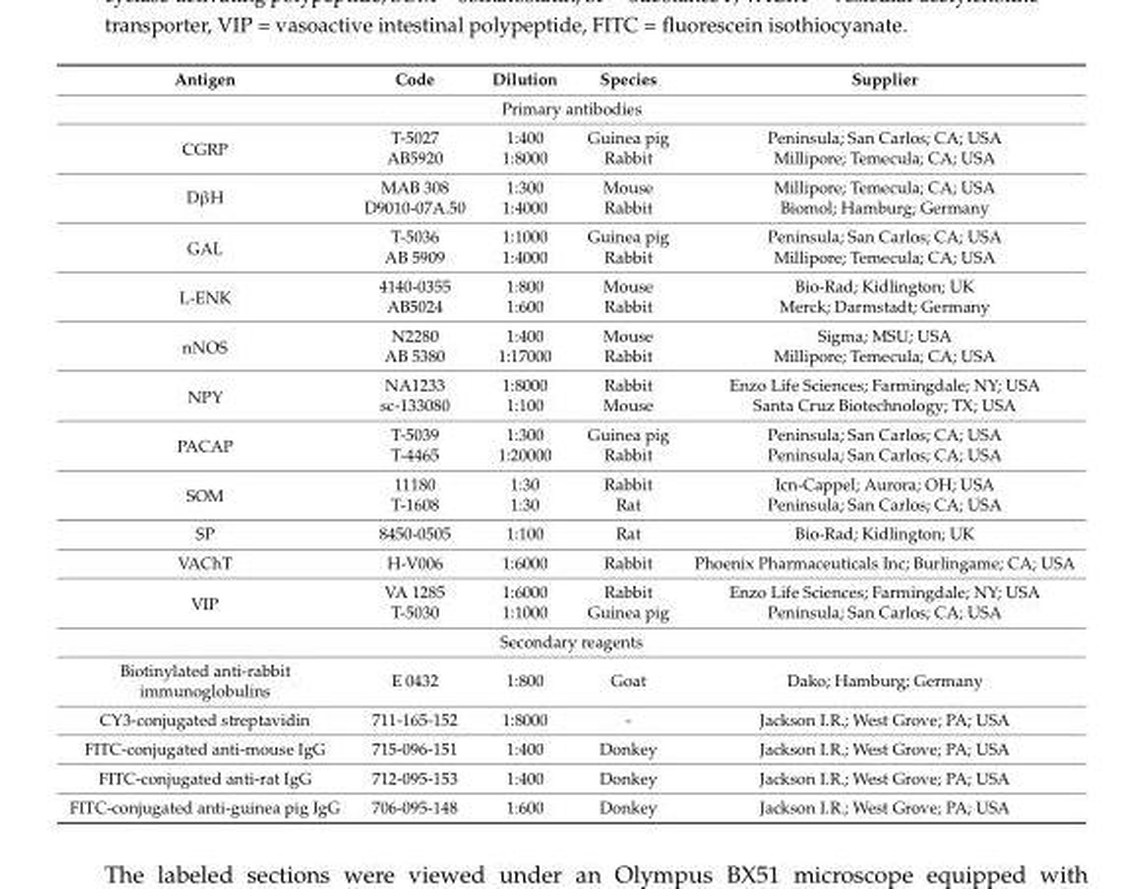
<table><thead><tr><td>Antigen</td><td>Code</td><td>Dilution</td><td>Species</td><td>Supplier</td></tr></thead><tbody><tr><td colspan="5">Primary antibodies</td></tr><tr><td rowspan="2">CGRP</td><td>T-5027</td><td>1:400</td><td>Guinea pig</td><td>Peninsula; San Carlos; CA; USA</td></tr><tr><td>AB5920</td><td>1:8000</td><td>Rabbit</td><td>Millipore; Temecula; CA; USA</td></tr><tr><td rowspan="2">DβH</td><td>MAB 308</td><td>1:300</td><td>Mouse</td><td>Millipore; Temecula; CA; USA</td></tr><tr><td>D9010-07A.50</td><td>1:4000</td><td>Rabbit</td><td>Biomol; Hamburg; Germany</td></tr><tr><td rowspan="2">GAL</td><td>T-5036</td><td>1:1000</td><td>Guinea pig</td><td>Peninsula; San Carlos; CA; USA</td></tr><tr><td>AB 5909</td><td>1:4000</td><td>Rabbit</td><td>Millipore; Temecula; CA; USA</td></tr><tr><td rowspan="2">L-ENK</td><td>4140-0355</td><td>1:800</td><td>Mouse</td><td>Bio-Rad; Kidlington; UK</td></tr><tr><td>AB5024</td><td>1:600</td><td>Rabbit</td><td>Merck; Darmstadt; Germany</td></tr><tr><td rowspan="2">nNOS</td><td>N2280</td><td>1:400</td><td>Mouse</td><td>Sigma; MSU; USA</td></tr><tr><td>AB 5380</td><td>1:17000</td><td>Rabbit</td><td>Millipore; Temecula; CA; USA</td></tr><tr><td rowspan="2">NPY</td><td>NA1233</td><td>1:8000</td><td>Rabbit</td><td>Enzo Life Sciences; Farmingdale; NY; USA</td></tr><tr><td>sc-133080</td><td>1:100</td><td>Mouse</td><td>Santa Cruz Biotechnology; TX; USA</td></tr><tr><td rowspan="2">PACAP</td><td>T-5039</td><td>1:300</td><td>Guinea pig</td><td>Peninsula; San Carlos; CA; USA</td></tr><tr><td>T-4465</td><td>1:20000</td><td>Rabbit</td><td>Peninsula; San Carlos; CA; USA</td></tr><tr><td rowspan="2">SOM</td><td>11180</td><td>1:30</td><td>Rabbit</td><td>Icn-Cappel; Aurora; OH; USA</td></tr><tr><td>T-1608</td><td>1:30</td><td>Rat</td><td>Peninsula; San Carlos; CA; USA</td></tr><tr><td>SP</td><td>8450-0505</td><td>1:100</td><td>Rat</td><td>Bio-Rad; Kidlington; UK</td></tr><tr><td>VAChT</td><td>H-V006</td><td>1:6000</td><td>Rabbit</td><td>Phoenix Pharmaceuticals Inc; Burlingame; CA; USA</td></tr><tr><td rowspan="2">VIP</td><td>VA 1285</td><td>1:6000</td><td>Rabbit</td><td>Enzo Life Sciences; Farmingdale; NY; USA</td></tr><tr><td>T-5030</td><td>1:1000</td><td>Guinea pig</td><td>Peninsula; San Carlos; CA; USA</td></tr><tr><td colspan="5">Secondary reagents</td></tr><tr><td>Biotinylated anti-rabbit immunoglobulins</td><td>E 0432</td><td>1:800</td><td>Goat</td><td>Dako; Hamburg; Germany</td></tr><tr><td>CY3-conjugated streptavidin</td><td>711-165-152</td><td>1:8000</td><td>-</td><td>Jackson I.R.; West Grove; PA; USA</td></tr><tr><td>FITC-conjugated anti-mouse IgG</td><td>715-096-151</td><td>1:400</td><td>Donkey</td><td>Jackson I.R.; West Grove; PA; USA</td></tr><tr><td>FITC-conjugated anti-rat IgG</td><td>712-095-153</td><td>1:400</td><td>Donkey</td><td>Jackson I.R.; West Grove; PA; USA</td></tr><tr><td>FITC-conjugated anti-guinea pig IgG</td><td>706-095-148</td><td>1:600</td><td>Donkey</td><td>Jackson I.R.; West Grove; PA; USA</td></tr></tbody></table>